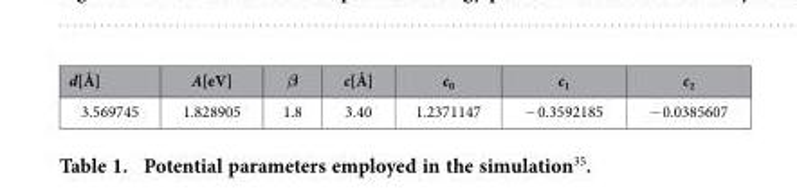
<table><thead><tr><td>d[Å]</td><td>A[eV]</td><td>β</td><td>c[Å]</td><td>c<sub>0</sub></td><td>c<sub>1</sub></td><td>c<sub>2</sub></td></tr></thead><tbody><tr><td>3.569745</td><td>1.828905</td><td>1.8</td><td>3.40</td><td>1.2371147</td><td>− 0.3592185</td><td>− 0.0385607</td></tr></tbody></table>